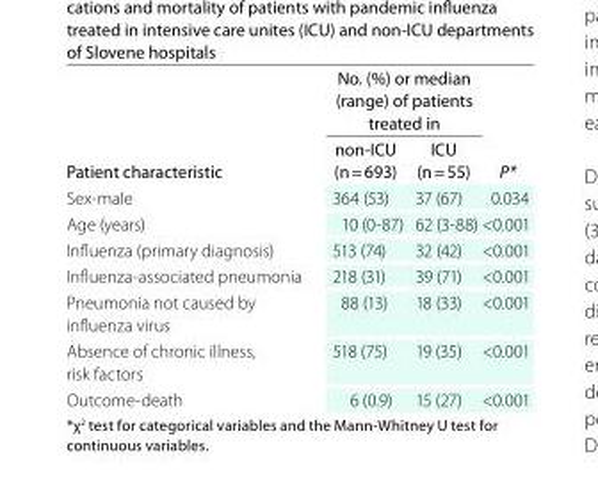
<table><thead><tr><td rowspan="2">Patient characteristic</td><td colspan="2">No. (%) or median (range) of patients treated in</td><td rowspan="2">P*</td></tr><tr><td>non-ICu (n = 693)</td><td>ICu (n = 55)</td></tr></thead><tbody><tr><td>Sex-male</td><td>364 (53)</td><td>37 (67)</td><td>0.034</td></tr><tr><td>Age (years)</td><td>10 (0-87)</td><td>62 (3-88)</td><td>&lt;0.001</td></tr><tr><td>Influenza (primary diagnosis)</td><td>513 (74)</td><td>32 (42)</td><td>&lt;0.001</td></tr><tr><td>Influenza-associated pneumonia</td><td>218 (31)</td><td>39 (71)</td><td>&lt;0.001</td></tr><tr><td>Pneumonia not caused by influenza virus</td><td>88 (13)</td><td>18 (33)</td><td>&lt;0.001</td></tr><tr><td>Absence of chronic illness, risk factors</td><td>518 (75)</td><td>19 (35)</td><td>&lt;0.001</td></tr><tr><td>Outcome-death</td><td>6 (0.9)</td><td>15 (27)</td><td>&lt;0.001</td></tr></tbody></table>